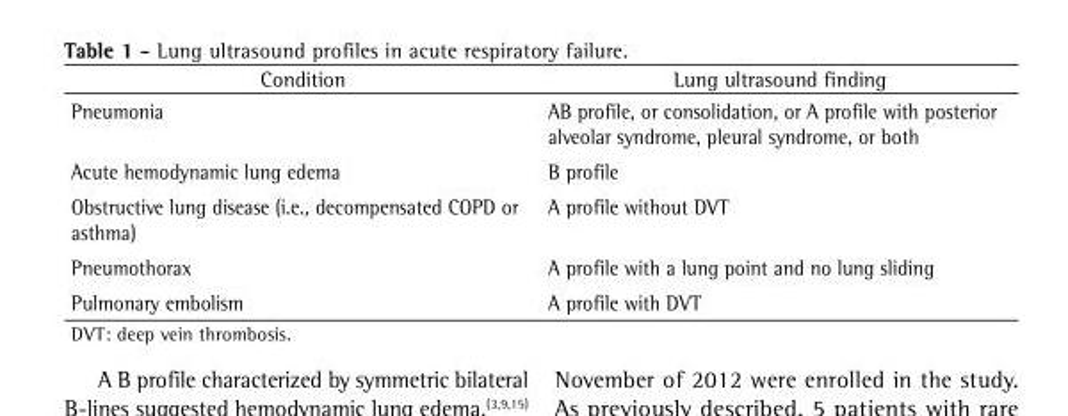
<table><thead><tr><td>Condition</td><td>Lung ultrasound finding</td></tr></thead><tbody><tr><td>Pneumonia</td><td>AB profile, or consolidation, or A profile with posterior alveolar syndrome, pleural syndrome, or both</td></tr><tr><td>Acute hemodynamic lung edema</td><td>B profile</td></tr><tr><td>Obstructive lung disease (i.e., decompensated COPD or asthma)</td><td>A profile without DVT</td></tr><tr><td>Pneumothorax</td><td>A profile with a lung point and no lung sliding</td></tr><tr><td>Pulmonary embolism</td><td>A profile with DVT</td></tr><tr><td>DVT: deep vein thrombosis.</td><td></td></tr></tbody></table>